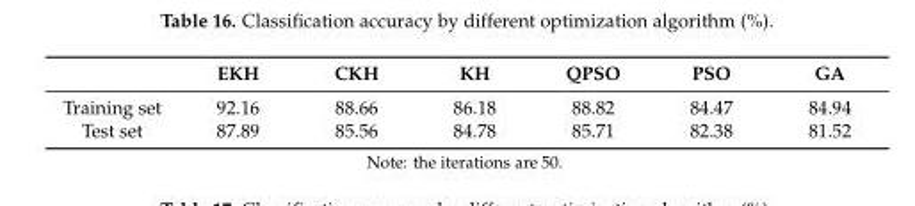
<table><thead><tr><td></td><td>EKH</td><td>CKH</td><td>KH</td><td>QPSO</td><td>PSO</td><td>GA</td></tr></thead><tbody><tr><td>Training set</td><td>92.16</td><td>88.66</td><td>86.18</td><td>88.82</td><td>84.47</td><td>84.94</td></tr><tr><td>Test set</td><td>87.89</td><td>85.56</td><td>84.78</td><td>85.71</td><td>82.38</td><td>81.52</td></tr></tbody></table>